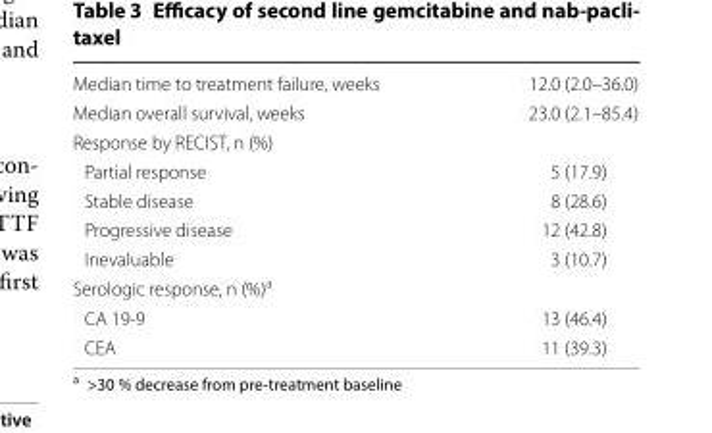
<table><tbody><tr><td>Median time to treatment failure, weeks</td><td>12.0 (2.0–36.0)</td></tr><tr><td>Median overall survival, weeks</td><td>23.0 (2.1–85.4)</td></tr><tr><td colspan="2">Response by RECIST, n (%)</td></tr><tr><td>Partial response</td><td>5 (17.9)</td></tr><tr><td>Stable disease</td><td>8 (28.6)</td></tr><tr><td>Progressive disease</td><td>12 (42.8)</td></tr><tr><td>Inevaluable</td><td>3 (10.7)</td></tr><tr><td colspan="2">Serologic response, n (%)<sup>a</sup></td></tr><tr><td>CA 19-9</td><td>13 (46.4)</td></tr><tr><td>CEA</td><td>11 (39.3)</td></tr></tbody></table>